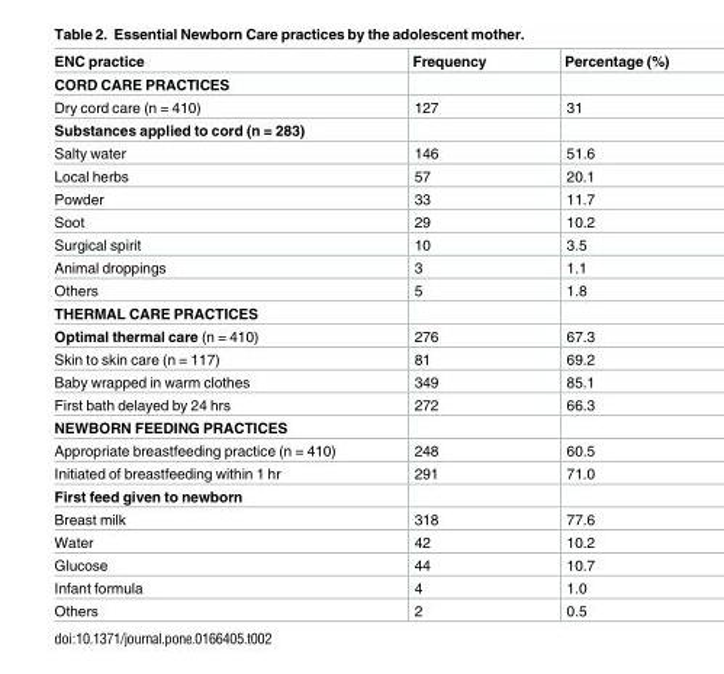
<table><thead><tr><td>ENC practice</td><td>Frequency</td><td>Percentage (%)</td></tr></thead><tbody><tr><td colspan="3">CORD CARE PRACTICES</td></tr><tr><td>Dry cord care (n = 410)</td><td>127</td><td>31</td></tr><tr><td colspan="3">Substances applied to cord (n = 283)</td></tr><tr><td>Salty water</td><td>146</td><td>51.6</td></tr><tr><td>Local herbs</td><td>57</td><td>20.1</td></tr><tr><td>Powder</td><td>33</td><td>11.7</td></tr><tr><td>Soot</td><td>29</td><td>10.2</td></tr><tr><td>Surgical spirit</td><td>10</td><td>3.5</td></tr><tr><td>Animal droppings</td><td>3</td><td>1.1</td></tr><tr><td>Others</td><td>5</td><td>1.8</td></tr><tr><td colspan="3">THERMAL CARE PRACTICES</td></tr><tr><td>Optimal thermal care (n = 410)</td><td>276</td><td>67.3</td></tr><tr><td>Skin to skin care (n = 117)</td><td>81</td><td>69.2</td></tr><tr><td>Baby wrapped in warm clothes</td><td>349</td><td>85.1</td></tr><tr><td>First bath delayed by 24 hrs</td><td>272</td><td>66.3</td></tr><tr><td colspan="3">NEWBORN FEEDING PRACTICES</td></tr><tr><td>Appropriate breastfeeding practice (n = 410)</td><td>248</td><td>60.5</td></tr><tr><td>Initiated of breastfeeding within 1 hr</td><td>291</td><td>71.0</td></tr><tr><td colspan="3">First feed given to newborn</td></tr><tr><td>Breast milk</td><td>318</td><td>77.6</td></tr><tr><td>Water</td><td>42</td><td>10.2</td></tr><tr><td>Glucose</td><td>44</td><td>10.7</td></tr><tr><td>Infant formula</td><td>4</td><td>1.0</td></tr><tr><td>Others</td><td>2</td><td>0.5</td></tr></tbody></table>